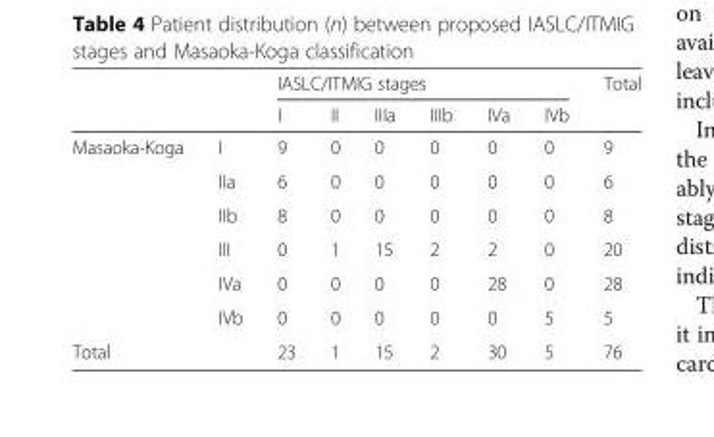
<table><thead><tr><td rowspan="2"></td><td rowspan="2"></td><td colspan="6">IASLC/ITMIG stages</td><td rowspan="2">Total</td></tr><tr><td>I</td><td>II</td><td>IIIa</td><td>IIIb</td><td>IVa</td><td>IVb</td></tr></thead><tbody><tr><td rowspan="6">Masaoka-Koga</td><td>I</td><td>9</td><td>0</td><td>0</td><td>0</td><td>0</td><td>0</td><td>9</td></tr><tr><td>IIa</td><td>6</td><td>0</td><td>0</td><td>0</td><td>0</td><td>0</td><td>6</td></tr><tr><td>IIb</td><td>8</td><td>0</td><td>0</td><td>0</td><td>0</td><td>0</td><td>8</td></tr><tr><td>III</td><td>0</td><td>1</td><td>15</td><td>2</td><td>2</td><td>0</td><td>20</td></tr><tr><td>IVa</td><td>0</td><td>0</td><td>0</td><td>0</td><td>28</td><td>0</td><td>28</td></tr><tr><td>IVb</td><td>0</td><td>0</td><td>0</td><td>0</td><td>0</td><td>5</td><td>5</td></tr><tr><td colspan="2">Total</td><td>23</td><td>1</td><td>15</td><td>2</td><td>30</td><td>5</td><td>76</td></tr></tbody></table>